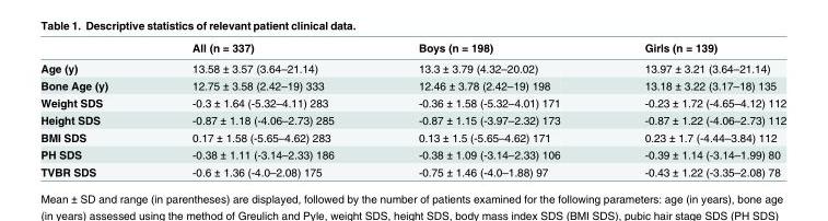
<table><thead><tr><td></td><td>All (n = 337)</td><td>Boys (n = 198)</td><td>Girls (n = 139)</td></tr></thead><tbody><tr><td>Age (y)</td><td>13.58 ± 3.57 (3.64–21.14)</td><td>13.3 ± 3.79 (4.32–20.02)</td><td>13.97 ± 3.21 (3.64–21.14)</td></tr><tr><td>Bone Age (y)</td><td>12.75 ± 3.58 (2.42–19) 333</td><td>12.46 ± 3.78 (2.42–19) 198</td><td>13.18 ± 3.22 (3.17–18) 135</td></tr><tr><td>Weight SDS</td><td>-0.3 ± 1.64 (-5.32–4.11) 283</td><td>-0.36 ± 1.58 (-5.32–4.01) 171</td><td>-0.23 ± 1.72 (-4.65–4.12) 112</td></tr><tr><td>Height SDS</td><td>-0.87 ± 1.18 (-4.06–2.73) 285</td><td>-0.87 ± 1.15 (-3.97–2.32) 173</td><td>-0.87 ± 1.22 (-4.06–2.73) 112</td></tr><tr><td>BMI SDS</td><td>0.17 ± 1.58 (-5.65–4.62) 283</td><td>0.13 ± 1.5 (-5.65–4.62) 171</td><td>0.23 ± 1.7 (-4.44–3.84) 112</td></tr><tr><td>PH SDS</td><td>-0.38 ± 1.11 (-3.14–2.33) 186</td><td>-0.38 ± 1.09 (-3.14–2.33) 106</td><td>-0.39 ± 1.14 (-3.14–1.99) 80</td></tr><tr><td>TVBR SDS</td><td>-0.6 ± 1.36 (-4.0–2.08) 175</td><td>-0.75 ± 1.46 (-4.0–1.88) 97</td><td>-0.43 ± 1.22 (-3.35–2.08) 78</td></tr></tbody></table>